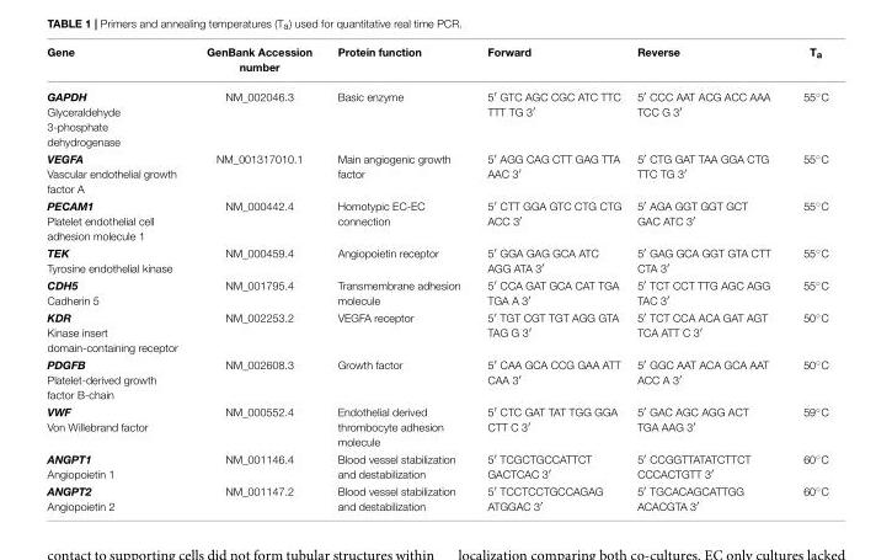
<table><thead><tr><td>Gene</td><td>GenBank Accession number</td><td>Protein function</td><td>Forward</td><td>Reverse</td><td>T<sub>a</sub></td></tr></thead><tbody><tr><td>GAPDH Glyceraldehyde 3-phosphate dehydrogenase</td><td>NM_002046.3</td><td>Basic enzyme</td><td>5′ GTC AGC CGC ATC TTC TTT TG 3′</td><td>5′ CCC AAT ACG ACC AAA TCC G 3′</td><td>55◦C</td></tr><tr><td>VEGFA Vascular endothelial growth factor A</td><td>NM_001317010.1</td><td>Main angiogenic growth factor</td><td>5′ AGG CAG CTT GAG TTA AAC 3′</td><td>5′ CTG GAT TAA GGA CTG TTC TG 3′</td><td>55◦C</td></tr><tr><td>PECAM1 Platelet endothelial cell adhesion molecule 1</td><td>NM_000442.4</td><td>Homotypic EC-EC connection</td><td>5′ CTT GGA GTC CTG CTG ACC 3′</td><td>5′ AGA GGT GGT GCT GAC ATC 3′</td><td>55◦C</td></tr><tr><td>TEK Tyrosine endothelial kinase</td><td>NM_000459.4</td><td>Angiopoietin receptor</td><td>5′ GGA GAG GCA ATC AGG ATA 3′</td><td>5′ GAG GCA GGT GTA CTT CTA 3′</td><td>55◦C</td></tr><tr><td>CDH5 Cadherin 5</td><td>NM_001795.4</td><td>Transmembrane adhesion molecule</td><td>5′ CCA GAT GCA CAT TGA TGA A 3′</td><td>5′ TCT CCT TTG AGC AGG TAC 3′</td><td>55◦C</td></tr><tr><td>KDR Kinase insert domain-containing receptor</td><td>NM_002253.2</td><td>VEGFA receptor</td><td>5′ TGT CGT TGT AGG GTA TAG G 3′</td><td>5′ TCT CCA ACA GAT AGT TCA ATT C 3′</td><td>50◦C</td></tr><tr><td>PDGFB Platelet-derived growth factor B-chain</td><td>NM_002608.3</td><td>Growth factor</td><td>5′ CAA GCA CCG GAA ATT CAA 3′</td><td>5′ GGC AAT ACA GCA AAT ACC A 3′</td><td>50◦C</td></tr><tr><td>VWF Von Willebrand factor</td><td>NM_000552.4</td><td>Endothelial derived thrombocyte adhesion molecule</td><td>5′ CTC GAT TAT TGG GGA CTT C 3′</td><td>5′ GAC AGC AGG ACT TGA AAG 3′</td><td>59◦C</td></tr><tr><td>ANGPT1 Angiopoietin 1</td><td>NM_001146.4</td><td>Blood vessel stabilization and destabilization</td><td>5′ TCGCTGCCATTCT GACTCAC 3′</td><td>5′ CCGGTTATATCTTCT CCCACTGTT 3′</td><td>60◦C</td></tr><tr><td>ANGPT2 Angiopoietin 2</td><td>NM_001147.2</td><td>Blood vessel stabilization and destabilization</td><td>5′ TCCTCCTGCCAGAG ATGGAC 3′</td><td>5′ TGCACAGCATTGG ACACGTA 3′</td><td>60◦C</td></tr></tbody></table>